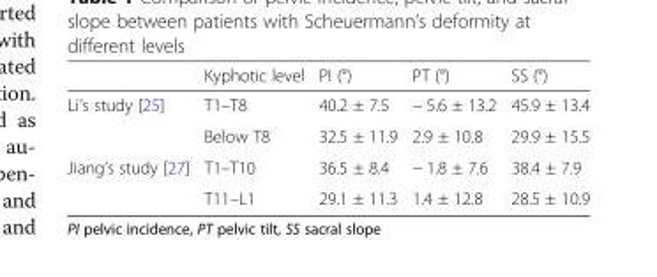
<table><thead><tr><td></td><td>Kyphotic level</td><td>PI (°)</td><td>PT (°)</td><td>SS (°)</td></tr></thead><tbody><tr><td rowspan="2">Li’s study [25]</td><td>T1–T8</td><td>40.2 ± 7.5</td><td>− 5.6 ± 13.2</td><td>45.9 ± 13.4</td></tr><tr><td>Below T8</td><td>32.5 ± 11.9</td><td>2.9 ± 10.8</td><td>29.9 ± 15.5</td></tr><tr><td rowspan="2">Jiang’s study [27]</td><td>T1–T10</td><td>36.5 ± 8.4</td><td>− 1.8 ± 7.6</td><td>38.4 ± 7.9</td></tr><tr><td>T11–L1</td><td>29.1 ± 11.3</td><td>1.4 ± 12.8</td><td>28.5 ± 10.9</td></tr></tbody></table>